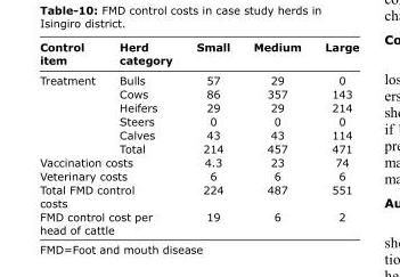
<table><thead><tr><td>Control item</td><td>Herd category</td><td>Small</td><td>Medium</td><td>Large</td></tr></thead><tbody><tr><td rowspan="6">Treatment</td><td>Bulls</td><td>57</td><td>29</td><td>0</td></tr><tr><td>Cows</td><td>86</td><td>357</td><td>143</td></tr><tr><td>Heifers</td><td>29</td><td>29</td><td>214</td></tr><tr><td>Steers</td><td>0</td><td>0</td><td>0</td></tr><tr><td>Calves</td><td>43</td><td>43</td><td>114</td></tr><tr><td>Total</td><td>214</td><td>457</td><td>471</td></tr><tr><td colspan="2">Vaccination costs</td><td>4.3</td><td>23</td><td>74</td></tr><tr><td colspan="2">Veterinary costs</td><td>6</td><td>6</td><td>6</td></tr><tr><td colspan="2">Total FMD control costs</td><td>224</td><td>487</td><td>551</td></tr><tr><td colspan="2">FMD control cost per head of cattle</td><td>19</td><td>6</td><td>2</td></tr></tbody></table>